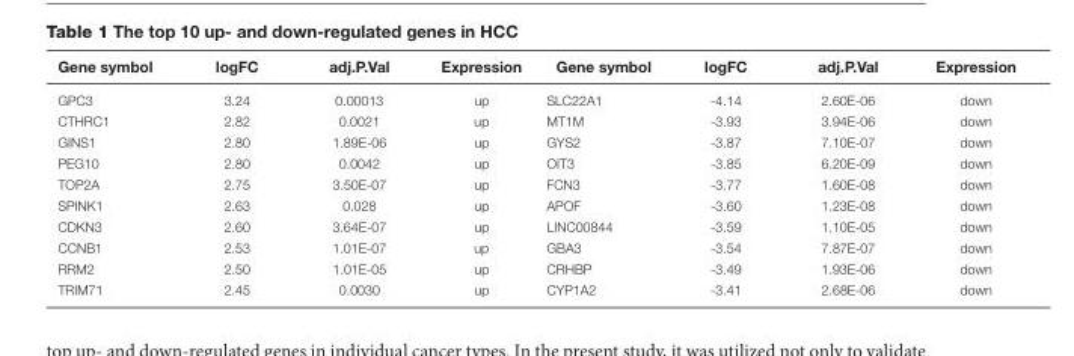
<table><thead><tr><td>Gene symbol</td><td>logFC</td><td>adj.P.Val</td><td>Expression</td><td>Gene symbol</td><td>logFC</td><td>adj.P.Val</td><td>Expression</td></tr></thead><tbody><tr><td>GPC3</td><td>3.24</td><td>0.00013</td><td>up</td><td>SLC22A1</td><td>-4.14</td><td>2.60E-06</td><td>down</td></tr><tr><td>CTHRC1</td><td>2.82</td><td>0.0021</td><td>up</td><td>MT1M</td><td>-3.93</td><td>3.94E-06</td><td>down</td></tr><tr><td>GINS1</td><td>2.80</td><td>1.89E-06</td><td>up</td><td>GYS2</td><td>-3.87</td><td>7.10E-07</td><td>down</td></tr><tr><td>PEG10</td><td>2.80</td><td>0.0042</td><td>up</td><td>OIT3</td><td>-3.85</td><td>6.20E-09</td><td>down</td></tr><tr><td>TOP2A</td><td>2.75</td><td>3.50E-07</td><td>up</td><td>FCN3</td><td>-3.77</td><td>1.60E-08</td><td>down</td></tr><tr><td>SPINK1</td><td>2.63</td><td>0.028</td><td>up</td><td>APOF</td><td>-3.60</td><td>1.23E-08</td><td>down</td></tr><tr><td>CDKN3</td><td>2.60</td><td>3.64E-07</td><td>up</td><td>LINC00844</td><td>-3.59</td><td>1.10E-05</td><td>down</td></tr><tr><td>CCNB1</td><td>2.53</td><td>1.01E-07</td><td>up</td><td>GBA3</td><td>-3.54</td><td>7.87E-07</td><td>down</td></tr><tr><td>RRM2</td><td>2.50</td><td>1.01E-05</td><td>up</td><td>CRHBP</td><td>-3.49</td><td>1.93E-06</td><td>down</td></tr><tr><td>TRIM71</td><td>2.45</td><td>0.0030</td><td>up</td><td>CYP1A2</td><td>-3.41</td><td>2.68E-06</td><td>down</td></tr></tbody></table>